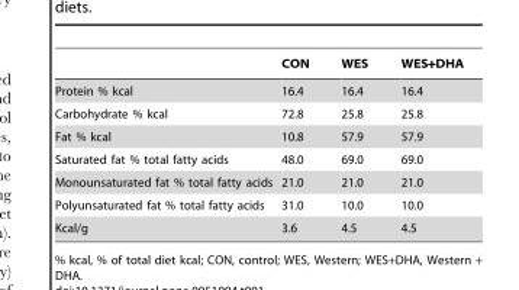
<table><thead><tr><td></td><td>CON</td><td>WES</td><td>WES+DHA</td></tr></thead><tbody><tr><td>Protein % kcal</td><td>16.4</td><td>16.4</td><td>16.4</td></tr><tr><td>Carbohydrate % kcal</td><td>72.8</td><td>25.8</td><td>25.8</td></tr><tr><td>Fat % kcal</td><td>10.8</td><td>57.9</td><td>57.9</td></tr><tr><td>Saturated fat % total fatty acids</td><td>48.0</td><td>69.0</td><td>69.0</td></tr><tr><td>Monounsaturated fat % total fatty acids</td><td>21.0</td><td>21.0</td><td>21.0</td></tr><tr><td>Polyunsaturated fat % total fatty acids</td><td>31.0</td><td>10.0</td><td>10.0</td></tr><tr><td>Kcal/g</td><td>3.6</td><td>4.5</td><td>4.5</td></tr></tbody></table>